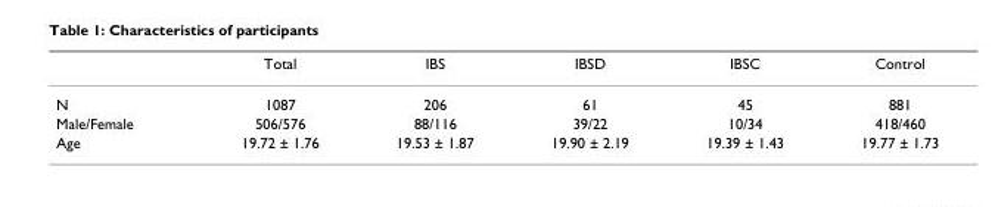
<table><thead><tr><td></td><td>Total</td><td>IBS</td><td>IBSD</td><td>IBSC</td><td>Control</td></tr></thead><tbody><tr><td>N</td><td>1087</td><td>206</td><td>61</td><td>45</td><td>881</td></tr><tr><td>Male/Female</td><td>506/576</td><td>88/116</td><td>39/22</td><td>10/34</td><td>418/460</td></tr><tr><td>Age</td><td>19.72 ± 1.76</td><td>19.53 ± 1.87</td><td>19.90 ± 2.19</td><td>19.39 ± 1.43</td><td>19.77 ± 1.73</td></tr></tbody></table>